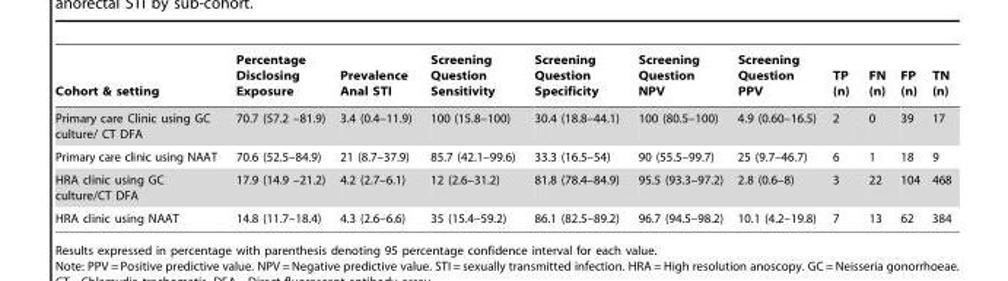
<table><thead><tr><td>Cohort &amp; setting</td><td>Percentage Disclosing Exposure</td><td>Prevalence Anal STI</td><td>Screening Question Sensitivity</td><td>Screening Question Specificity</td><td>Screening Question NPV</td><td>Screening Question PPV</td><td>TP (n)</td><td>FN (n)</td><td>FP (n)</td><td>TN (n)</td></tr></thead><tbody><tr><td>Primary care Clinic using GC culture/ CT DFA</td><td>70.7 (57.2 –81.9)</td><td>3.4 (0.4–11.9)</td><td>100 (15.8–100)</td><td>30.4 (18.8–44.1)</td><td>100 (80.5–100)</td><td>4.9 (0.60–16.5)</td><td>2</td><td>0</td><td>39</td><td>17</td></tr><tr><td>Primary care clinic using NAAT</td><td>70.6 (52.5–84.9)</td><td>21 (8.7–37.9)</td><td>85.7 (42.1–99.6)</td><td>33.3 (16.5–54)</td><td>90 (55.5–99.7)</td><td>25 (9.7–46.7)</td><td>6</td><td>1</td><td>18</td><td>9</td></tr><tr><td>HRA clinic using GC culture/CT DFA</td><td>17.9 (14.9 –21.2)</td><td>4.2 (2.7–6.1)</td><td>12 (2.6–31.2)</td><td>81.8 (78.4–84.9)</td><td>95.5 (93.3–97.2)</td><td>2.8 (0.6–8)</td><td>3</td><td>22</td><td>104</td><td>468</td></tr><tr><td>HRA clinic using NAAT</td><td>14.8 (11.7–18.4)</td><td>4.3 (2.6–6.6)</td><td>35 (15.4–59.2)</td><td>86.1 (82.5–89.2)</td><td>96.7 (94.5–98.2)</td><td>10.1 (4.2–19.8)</td><td>7</td><td>13</td><td>62</td><td>384</td></tr></tbody></table>